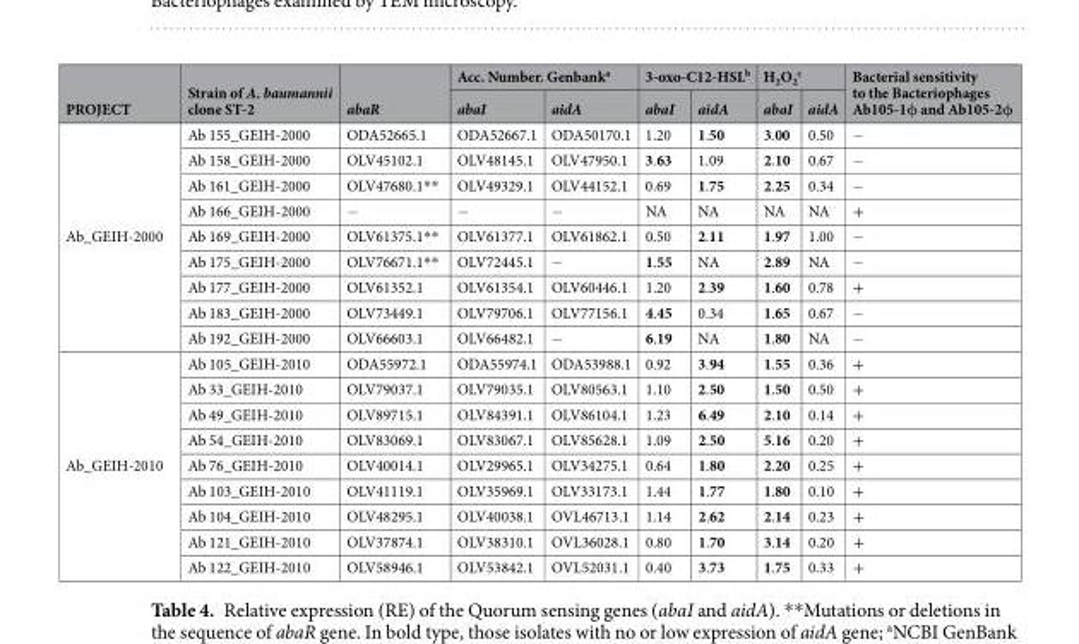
<table><thead><tr><td rowspan="2">PROJECT</td><td rowspan="2">Strain of A. baumannii clone ST-2</td><td rowspan="2">abaR</td><td colspan="2">Acc. Number. Genbank<sup>a</sup></td><td colspan="2">3-oxo-C12-HSL<sup>b</sup></td><td colspan="2">H<sub>2</sub>O<sub>2</sub> <sup>c</sup></td><td rowspan="2">Bacterial sensitivity to the Bacteriophages Ab105-1φ and Ab105-2φ</td></tr><tr><td>abaI</td><td>aidA</td><td>abaI</td><td>aidA</td><td>abaI</td><td>aidA</td></tr></thead><tbody><tr><td rowspan="9">Ab_GEIH-2000</td><td>Ab 155_GEIH-2000</td><td>ODA52665.1</td><td>ODA52667.1</td><td>ODA50170.1</td><td>1.20</td><td>1.50</td><td>3.00</td><td>0.50</td><td>−</td></tr><tr><td>Ab 158_GEIH-2000</td><td>OLV45102.1</td><td>OLV48145.1</td><td>OLV47950.1</td><td>3.63</td><td>1.09</td><td>2.10</td><td>0.67</td><td>−</td></tr><tr><td>Ab 161_GEIH-2000</td><td>OLV47680.1**</td><td>OLV49329.1</td><td>OLV44152.1</td><td>0.69</td><td>1.75</td><td>2.25</td><td>0.34</td><td>−</td></tr><tr><td>Ab 166_GEIH-2000</td><td>−</td><td>−</td><td>−</td><td>NA</td><td>NA</td><td>NA</td><td>NA</td><td>+</td></tr><tr><td>Ab 169_GEIH-2000</td><td>OLV61375.1**</td><td>OLV61377.1</td><td>OLV61862.1</td><td>0.50</td><td>2.11</td><td>1.97</td><td>1.00</td><td>−</td></tr><tr><td>Ab 175_GEIH-2000</td><td>OLV76671.1**</td><td>OLV72445.1</td><td>−</td><td>1.55</td><td>NA</td><td>2.89</td><td>NA</td><td>−</td></tr><tr><td>Ab 177_GEIH-2000</td><td>OLV61352.1</td><td>OLV61354.1</td><td>OLV60446.1</td><td>1.20</td><td>2.39</td><td>1.60</td><td>0.78</td><td>+</td></tr><tr><td>Ab 183_GEIH-2000</td><td>OLV73449.1</td><td>OLV79706.1</td><td>OLV77156.1</td><td>4.45</td><td>0.34</td><td>1.65</td><td>0.67</td><td>−</td></tr><tr><td>Ab 192_GEIH-2000</td><td>OLV66603.1</td><td>OLV66482.1</td><td>−</td><td>6.19</td><td>NA</td><td>1.80</td><td>NA</td><td>−</td></tr><tr><td rowspan="9">Ab_GEIH-2010</td><td>Ab 105_GEIH-2010</td><td>ODA55972.1</td><td>ODA55974.1</td><td>ODA53988.1</td><td>0.92</td><td>3.94</td><td>1.55</td><td>0.36</td><td>+</td></tr><tr><td>Ab 33_GEIH-2010</td><td>OLV79037.1</td><td>OLV79035.1</td><td>OLV80563.1</td><td>1.10</td><td>2.50</td><td>1.50</td><td>0.50</td><td>+</td></tr><tr><td>Ab 49_GEIH-2010</td><td>OLV89715.1</td><td>OLV84391.1</td><td>OLV86104.1</td><td>1.23</td><td>6.49</td><td>2.10</td><td>0.14</td><td>+</td></tr><tr><td>Ab 54_GEIH-2010</td><td>OLV83069.1</td><td>OLV83067.1</td><td>OLV85628.1</td><td>1.09</td><td>2.50</td><td>5.16</td><td>0.20</td><td>+</td></tr><tr><td>Ab 76_GEIH-2010</td><td>OLV40014.1</td><td>OLV29965.1</td><td>OLV34275.1</td><td>0.64</td><td>1.80</td><td>2.20</td><td>0.25</td><td>+</td></tr><tr><td>Ab 103_GEIH-2010</td><td>OLV41119.1</td><td>OLV35969.1</td><td>OLV33173.1</td><td>1.44</td><td>1.77</td><td>1.80</td><td>0.10</td><td>+</td></tr><tr><td>Ab 104_GEIH-2010</td><td>OLV48295.1</td><td>OLV40038.1</td><td>OVL46713.1</td><td>1.14</td><td>2.62</td><td>2.14</td><td>0.23</td><td>+</td></tr><tr><td>Ab 121_GEIH-2010</td><td>OLV37874.1</td><td>OLV38310.1</td><td>OVL36028.1</td><td>0.80</td><td>1.70</td><td>3.14</td><td>0.20</td><td>+</td></tr><tr><td>Ab 122_GEIH-2010</td><td>OLV58946.1</td><td>OLV53842.1</td><td>OVL52031.1</td><td>0.40</td><td>3.73</td><td>1.75</td><td>0.33</td><td>+</td></tr></tbody></table>